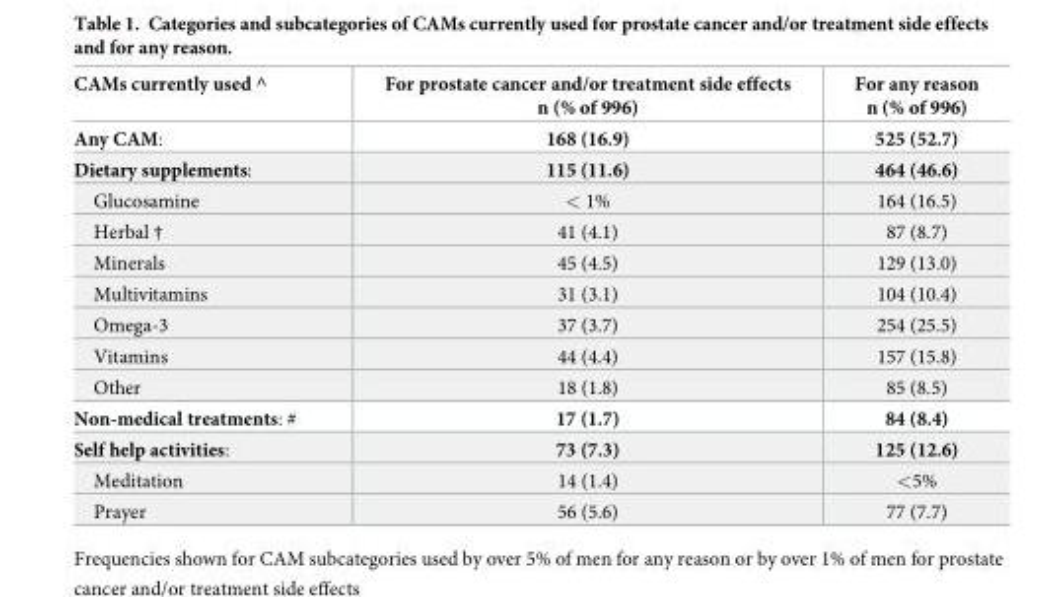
<table><thead><tr><td>CAMs currently used ^</td><td>For prostate cancer and/or treatment side effects n (% of 996)</td><td>For any reason n (% of 996)</td></tr></thead><tbody><tr><td>Any CAM:</td><td>168 (16.9)</td><td>525 (52.7)</td></tr><tr><td>Dietary supplements:</td><td>115 (11.6)</td><td>464 (46.6)</td></tr><tr><td>Glucosamine</td><td>&lt; 1%</td><td>164 (16.5)</td></tr><tr><td>Herbal †</td><td>41 (4.1)</td><td>87 (8.7)</td></tr><tr><td>Minerals</td><td>45 (4.5)</td><td>129 (13.0)</td></tr><tr><td>Multivitamins</td><td>31 (3.1)</td><td>104 (10.4)</td></tr><tr><td>Omega-3</td><td>37 (3.7)</td><td>254 (25.5)</td></tr><tr><td>Vitamins</td><td>44 (4.4)</td><td>157 (15.8)</td></tr><tr><td>Other</td><td>18 (1.8)</td><td>85 (8.5)</td></tr><tr><td>Non-medical treatments: #</td><td>17 (1.7)</td><td>84 (8.4)</td></tr><tr><td>Self help activities:</td><td>73 (7.3)</td><td>125 (12.6)</td></tr><tr><td>Meditation</td><td>14 (1.4)</td><td>&lt;5%</td></tr><tr><td>Prayer</td><td>56 (5.6)</td><td>77 (7.7)</td></tr></tbody></table>